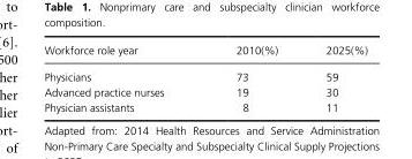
<table><thead><tr><td>Workforce role year</td><td>2010(%)</td><td>2025(%)</td></tr></thead><tbody><tr><td>Physicians</td><td>73</td><td>59</td></tr><tr><td>Advanced practice nurses</td><td>19</td><td>30</td></tr><tr><td>Physician assistants</td><td>8</td><td>11</td></tr></tbody></table>